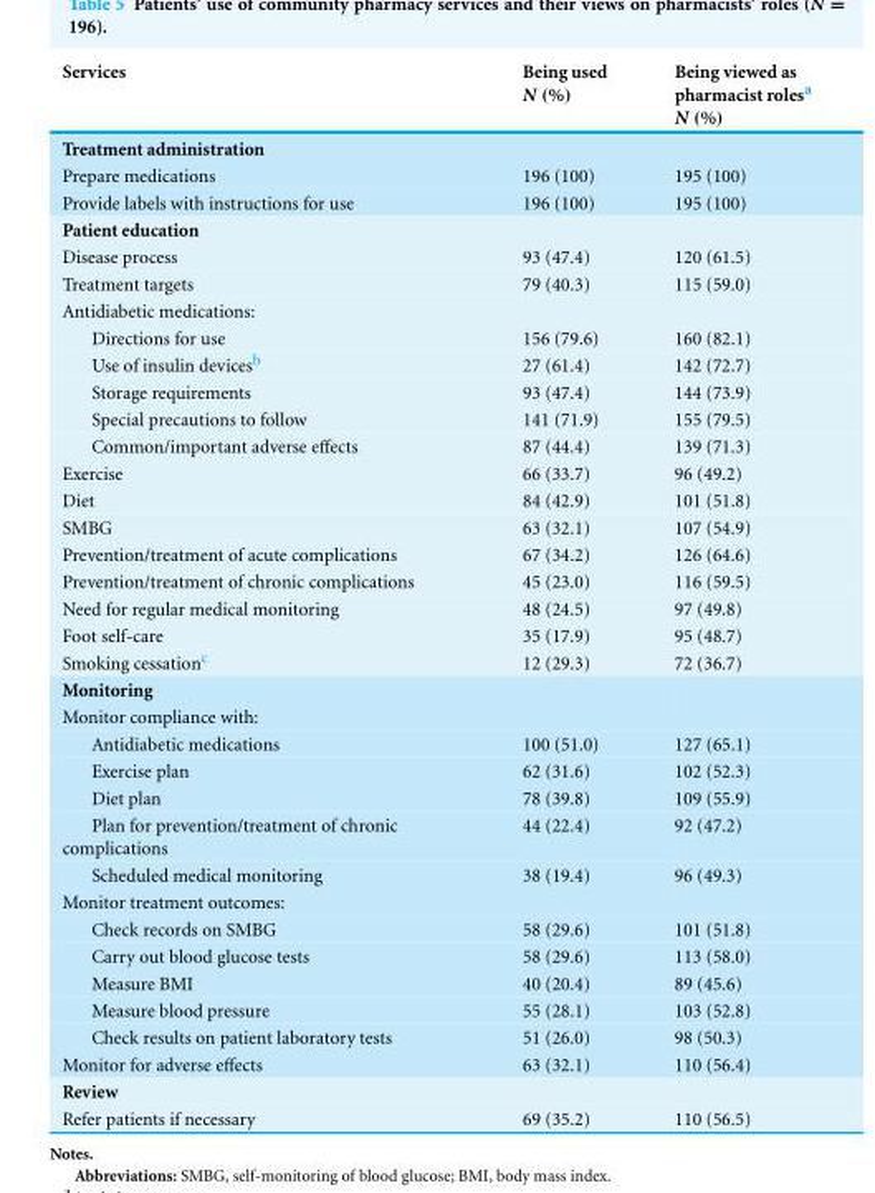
<table><thead><tr><td>Services</td><td>Being used N (%)</td><td>Being viewed as pharmacist roles<sup>a</sup> N (%)</td></tr></thead><tbody><tr><td colspan="3">Treatment administration</td></tr><tr><td>Prepare medications</td><td>196 (100)</td><td>195 (100)</td></tr><tr><td>Provide labels with instructions for use</td><td>196 (100)</td><td>195 (100)</td></tr><tr><td colspan="3">Patient education</td></tr><tr><td>Disease process</td><td>93 (47.4)</td><td>120 (61.5)</td></tr><tr><td>Treatment targets</td><td>79 (40.3)</td><td>115 (59.0)</td></tr><tr><td colspan="3">Antidiabetic medications:</td></tr><tr><td>Directions for use</td><td>156 (79.6)</td><td>160 (82.1)</td></tr><tr><td>Use of insulin devices<sup>b</sup></td><td>27 (61.4)</td><td>142 (72.7)</td></tr><tr><td>Storage requirements</td><td>93 (47.4)</td><td>144 (73.9)</td></tr><tr><td>Special precautions to follow</td><td>141 (71.9)</td><td>155 (79.5)</td></tr><tr><td>Common/important adverse effects</td><td>87 (44.4)</td><td>139 (71.3)</td></tr><tr><td>Exercise</td><td>66 (33.7)</td><td>96 (49.2)</td></tr><tr><td>Diet</td><td>84 (42.9)</td><td>101 (51.8)</td></tr><tr><td>SMBG</td><td>63 (32.1)</td><td>107 (54.9)</td></tr><tr><td>Prevention/treatment of acute complications</td><td>67 (34.2)</td><td>126 (64.6)</td></tr><tr><td>Prevention/treatment of chronic complications</td><td>45 (23.0)</td><td>116 (59.5)</td></tr><tr><td>Need for regular medical monitoring</td><td>48 (24.5)</td><td>97 (49.8)</td></tr><tr><td>Foot self-care</td><td>35 (17.9)</td><td>95 (48.7)</td></tr><tr><td>Smoking cessation<sup>c</sup></td><td>12 (29.3)</td><td>72 (36.7)</td></tr><tr><td colspan="3">Monitoring</td></tr><tr><td colspan="3">Monitor compliance with:</td></tr><tr><td>Antidiabetic medications</td><td>100 (51.0)</td><td>127 (65.1)</td></tr><tr><td>Exercise plan</td><td>62 (31.6)</td><td>102 (52.3)</td></tr><tr><td>Diet plan</td><td>78 (39.8)</td><td>109 (55.9)</td></tr><tr><td>Plan for prevention/treatment of chronic complications</td><td>44 (22.4)</td><td>92 (47.2)</td></tr><tr><td>Scheduled medical monitoring</td><td>38 (19.4)</td><td>96 (49.3)</td></tr><tr><td colspan="3">Monitor treatment outcomes:</td></tr><tr><td>Check records on SMBG</td><td>58 (29.6)</td><td>101 (51.8)</td></tr><tr><td>Carry out blood glucose tests</td><td>58 (29.6)</td><td>113 (58.0)</td></tr><tr><td>Measure BMI</td><td>40 (20.4)</td><td>89 (45.6)</td></tr><tr><td>Measure blood pressure</td><td>55 (28.1)</td><td>103 (52.8)</td></tr><tr><td>Check results on patient laboratory tests</td><td>51 (26.0)</td><td>98 (50.3)</td></tr><tr><td>Monitor for adverse effects</td><td>63 (32.1)</td><td>110 (56.4)</td></tr><tr><td colspan="3">Review</td></tr><tr><td>Refer patients if necessary</td><td>69 (35.2)</td><td>110 (56.5)</td></tr></tbody></table>